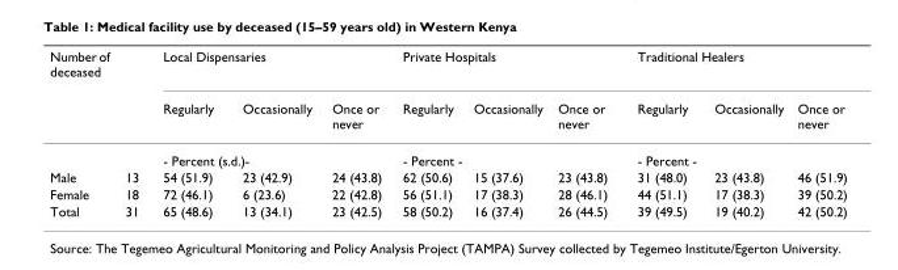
<table><thead><tr><td rowspan="2">Number of deceased</td><td rowspan="2"></td><td colspan="3">Local Dispensaries</td><td colspan="3">Private Hospitals</td><td colspan="3">Traditional Healers</td></tr><tr><td>Regularly</td><td>Occasionally</td><td>Once or never</td><td>Regularly</td><td>Occasionally</td><td>Once or never</td><td>Regularly</td><td>Occasionally</td><td>Once or never</td></tr></thead><tbody><tr><td></td><td></td><td colspan="3">- Percent (s.d.)-</td><td colspan="3">- Percent -</td><td colspan="3">- Percent -</td></tr><tr><td>Male</td><td>13</td><td>54 (51.9)</td><td>23 (42.9)</td><td>24 (43.8)</td><td>62 (50.6)</td><td>15 (37.6)</td><td>23 (43.8)</td><td>31 (48.0)</td><td>23 (43.8)</td><td>46 (51.9)</td></tr><tr><td>Female</td><td>18</td><td>72 (46.1)</td><td>6 (23.6)</td><td>22 (42.8)</td><td>56 (51.1)</td><td>17 (38.3)</td><td>28 (46.1)</td><td>44 (51.1)</td><td>17 (38.3)</td><td>39 (50.2)</td></tr><tr><td>Total</td><td>31</td><td>65 (48.6)</td><td>13 (34.1)</td><td>23 (42.5)</td><td>58 (50.2)</td><td>16 (37.4)</td><td>26 (44.5)</td><td>39 (49.5)</td><td>19 (40.2)</td><td>42 (50.2)</td></tr></tbody></table>